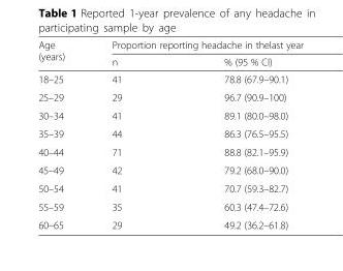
<table><thead><tr><td rowspan="2">Age (years)</td><td colspan="2">Proportion reporting headache in thelast year</td></tr><tr><td>n</td><td>% (95 % CI)</td></tr></thead><tbody><tr><td>18–25</td><td>41</td><td>78.8 (67.9–90.1)</td></tr><tr><td>25–29</td><td>29</td><td>96.7 (90.9–100)</td></tr><tr><td>30–34</td><td>41</td><td>89.1 (80.0–98.0)</td></tr><tr><td>35–39</td><td>44</td><td>86.3 (76.5–95.5)</td></tr><tr><td>40–44</td><td>71</td><td>88.8 (82.1–95.9)</td></tr><tr><td>45–49</td><td>42</td><td>79.2 (68.0–90.0)</td></tr><tr><td>50–54</td><td>41</td><td>70.7 (59.3–82.7)</td></tr><tr><td>55–59</td><td>35</td><td>60.3 (47.4–72.6)</td></tr><tr><td>60–65</td><td>29</td><td>49.2 (36.2–61.8)</td></tr></tbody></table>